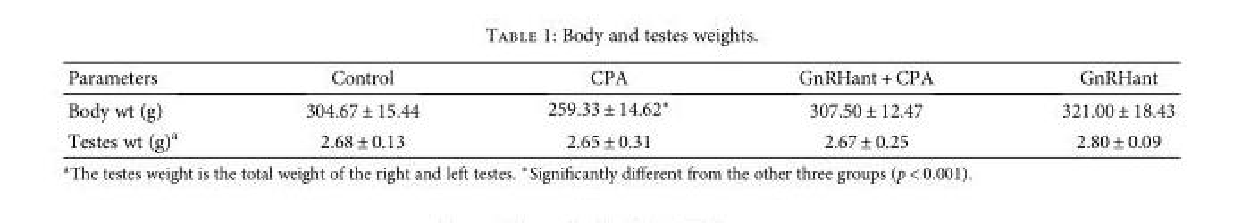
<table><thead><tr><td>Parameters</td><td>Control</td><td>CPA</td><td>GnRHant + CPA</td><td>GnRHant</td></tr></thead><tbody><tr><td>Body wt (g)</td><td>304.67 ± 15.44</td><td>259.33 ± 14.62∗</td><td>307.50 ± 12.47</td><td>321.00 ± 18.43</td></tr><tr><td>Testes wt (g)<sup>a</sup></td><td>2.68 ± 0.13</td><td>2.65 ± 0.31</td><td>2.67 ± 0.25</td><td>2.80 ± 0.09</td></tr></tbody></table>